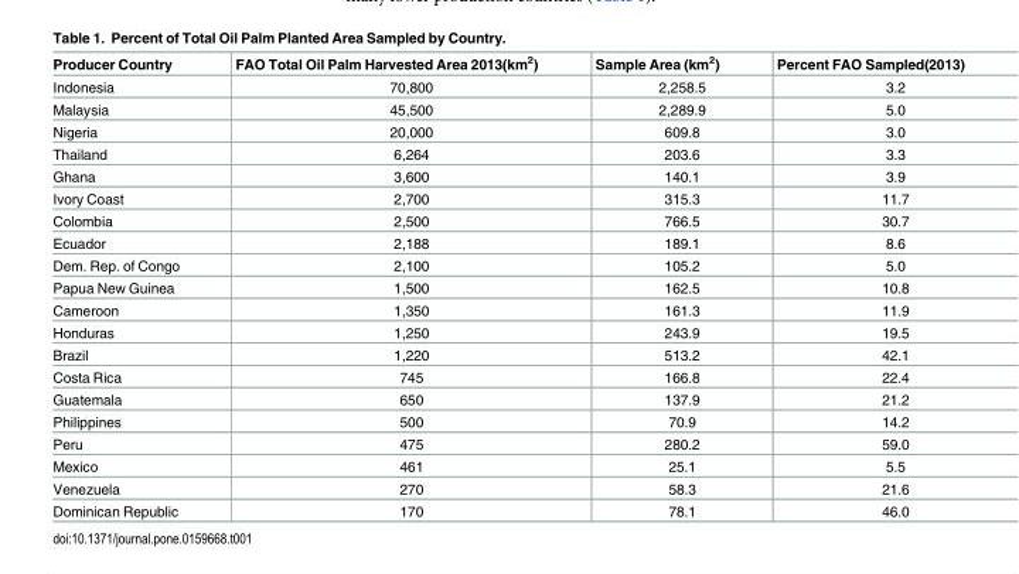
<table><thead><tr><td>Producer Country</td><td>FAO Total Oil Palm Harvested Area 2013(km<sup>2</sup>)</td><td>Sample Area (km<sup>2</sup>)</td><td>Percent FAO Sampled(2013)</td></tr></thead><tbody><tr><td>Indonesia</td><td>70,800</td><td>2,258.5</td><td>3.2</td></tr><tr><td>Malaysia</td><td>45,500</td><td>2,289.9</td><td>5.0</td></tr><tr><td>Nigeria</td><td>20,000</td><td>609.8</td><td>3.0</td></tr><tr><td>Thailand</td><td>6,264</td><td>203.6</td><td>3.3</td></tr><tr><td>Ghana</td><td>3,600</td><td>140.1</td><td>3.9</td></tr><tr><td>Ivory Coast</td><td>2,700</td><td>315.3</td><td>11.7</td></tr><tr><td>Colombia</td><td>2,500</td><td>766.5</td><td>30.7</td></tr><tr><td>Ecuador</td><td>2,188</td><td>189.1</td><td>8.6</td></tr><tr><td>Dem. Rep. of Congo</td><td>2,100</td><td>105.2</td><td>5.0</td></tr><tr><td>Papua New Guinea</td><td>1,500</td><td>162.5</td><td>10.8</td></tr><tr><td>Cameroon</td><td>1,350</td><td>161.3</td><td>11.9</td></tr><tr><td>Honduras</td><td>1,250</td><td>243.9</td><td>19.5</td></tr><tr><td>Brazil</td><td>1,220</td><td>513.2</td><td>42.1</td></tr><tr><td>Costa Rica</td><td>745</td><td>166.8</td><td>22.4</td></tr><tr><td>Guatemala</td><td>650</td><td>137.9</td><td>21.2</td></tr><tr><td>Philippines</td><td>500</td><td>70.9</td><td>14.2</td></tr><tr><td>Peru</td><td>475</td><td>280.2</td><td>59.0</td></tr><tr><td>Mexico</td><td>461</td><td>25.1</td><td>5.5</td></tr><tr><td>Venezuela</td><td>270</td><td>58.3</td><td>21.6</td></tr><tr><td>Dominican Republic</td><td>170</td><td>78.1</td><td>46.0</td></tr></tbody></table>